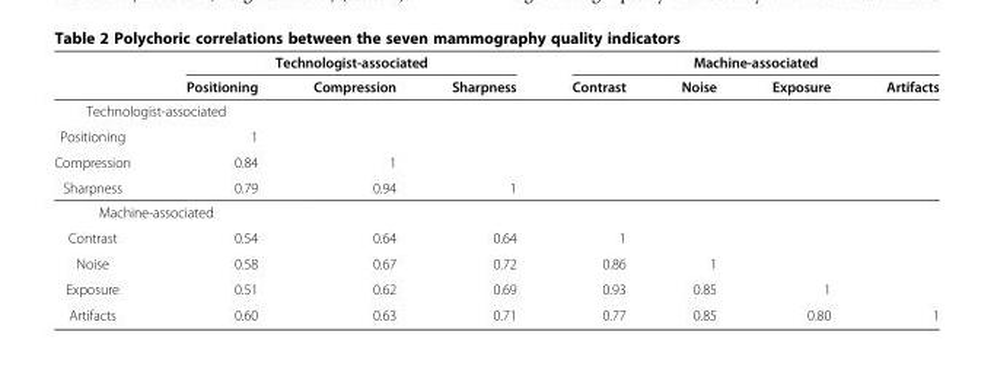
<table><thead><tr><td rowspan="2"></td><td colspan="3">Technologist-associated</td><td colspan="4">Machine-associated</td></tr><tr><td>Positioning</td><td>Compression</td><td>Sharpness</td><td>Contrast</td><td>Noise</td><td>Exposure</td><td>Artifacts</td></tr></thead><tbody><tr><td colspan="8">Technologist-associated</td></tr><tr><td>Positioning</td><td>1</td><td></td><td></td><td></td><td></td><td></td><td></td></tr><tr><td>Compression</td><td>0.84</td><td>1</td><td></td><td></td><td></td><td></td><td></td></tr><tr><td>Sharpness</td><td>0.79</td><td>0.94</td><td>1</td><td></td><td></td><td></td><td></td></tr><tr><td colspan="8">Machine-associated</td></tr><tr><td>Contrast</td><td>0.54</td><td>0.64</td><td>0.64</td><td>1</td><td></td><td></td><td></td></tr><tr><td>Noise</td><td>0.58</td><td>0.67</td><td>0.72</td><td>0.86</td><td>1</td><td></td><td></td></tr><tr><td>Exposure</td><td>0.51</td><td>0.62</td><td>0.69</td><td>0.93</td><td>0.85</td><td>1</td><td></td></tr><tr><td>Artifacts</td><td>0.60</td><td>0.63</td><td>0.71</td><td>0.77</td><td>0.85</td><td>0.80</td><td>1</td></tr></tbody></table>